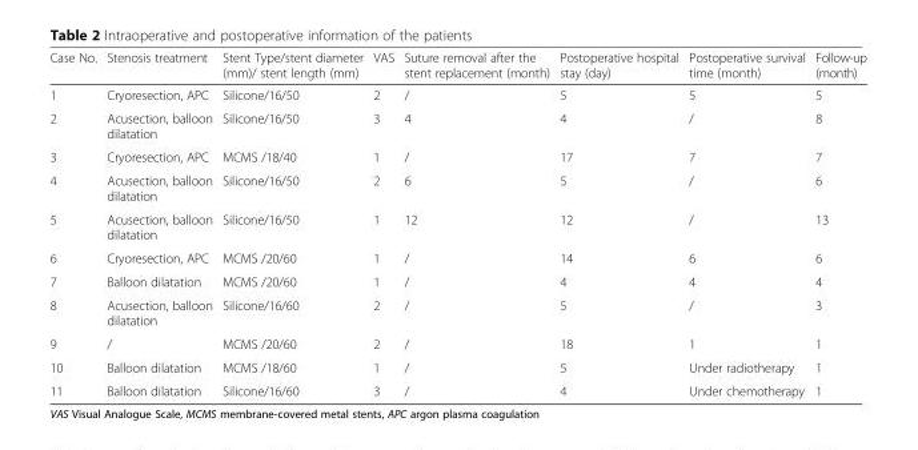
<table><thead><tr><td>Case No.</td><td>Stenosis treatment</td><td>Stent Type/stent diameter (mm)/ stent length (mm)</td><td>VAS</td><td>Suture removal after the stent replacement (month)</td><td>Postoperative hospital stay (day)</td><td>Postoperative survival time (month)</td><td>Follow-up (month)</td></tr></thead><tbody><tr><td>1</td><td>Cryoresection, APC</td><td>Silicone/16/50</td><td>2</td><td>/</td><td>5</td><td>5</td><td>5</td></tr><tr><td>2</td><td>Acusection, balloon dilatation</td><td>Silicone/16/50</td><td>3</td><td>4</td><td>4</td><td>/</td><td>8</td></tr><tr><td>3</td><td>Cryoresection, APC</td><td>MCMS /18/40</td><td>1</td><td>/</td><td>17</td><td>7</td><td>7</td></tr><tr><td>4</td><td>Acusection, balloon dilatation</td><td>Silicone/16/50</td><td>2</td><td>6</td><td>5</td><td>/</td><td>6</td></tr><tr><td>5</td><td>Acusection, balloon dilatation</td><td>Silicone/16/50</td><td>1</td><td>12</td><td>12</td><td>/</td><td>13</td></tr><tr><td>6</td><td>Cryoresection, APC</td><td>MCMS /20/60</td><td>1</td><td>/</td><td>14</td><td>6</td><td>6</td></tr><tr><td>7</td><td>Balloon dilatation</td><td>MCMS /20/60</td><td>1</td><td>/</td><td>4</td><td>4</td><td>4</td></tr><tr><td>8</td><td>Acusection, balloon dilatation</td><td>Silicone/16/60</td><td>2</td><td>/</td><td>5</td><td>/</td><td>3</td></tr><tr><td>9</td><td>/</td><td>MCMS /20/60</td><td>2</td><td>/</td><td>18</td><td>1</td><td>1</td></tr><tr><td>10</td><td>Balloon dilatation</td><td>MCMS /18/60</td><td>1</td><td>/</td><td>5</td><td>Under radiotherapy</td><td>1</td></tr><tr><td>11</td><td>Balloon dilatation</td><td>Silicone/16/60</td><td>3</td><td>/</td><td>4</td><td>Under chemotherapy</td><td>1</td></tr></tbody></table>